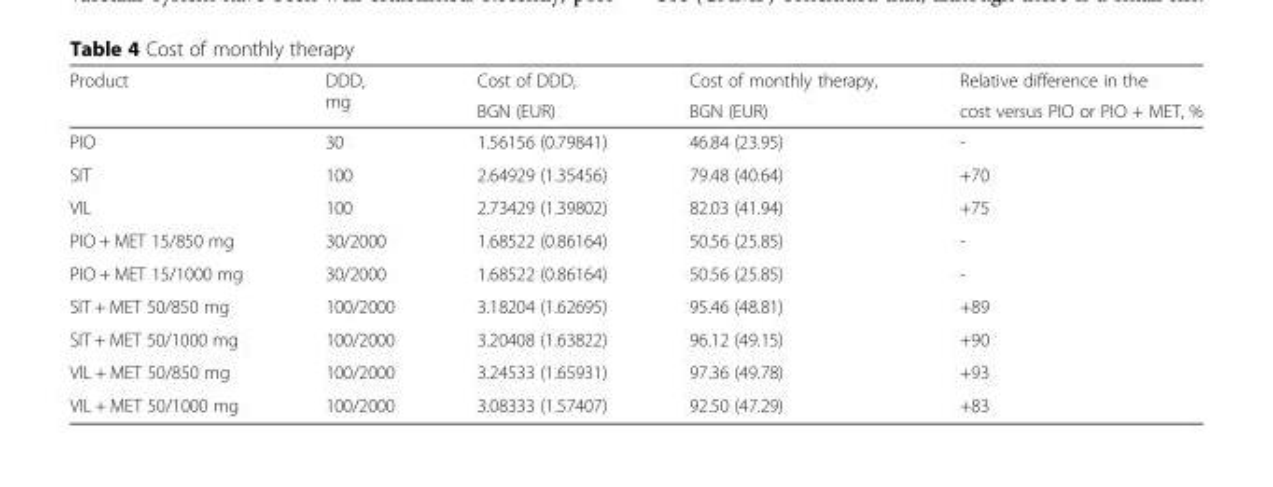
<table><thead><tr><td rowspan="2">Product</td><td rowspan="2">DDD, mg</td><td rowspan="2">Cost of DDD, BGN (EUR)</td><td rowspan="2">Cost of monthly therapy, BGN (EUR)</td><td rowspan="2">Relative difference in the cost versus PIO or PIO + MET, %</td></tr><tr></tr></thead><tbody><tr><td>PIO</td><td>30</td><td>1.56156 (0.79841)</td><td>46.84 (23.95)</td><td>-</td></tr><tr><td>SIT</td><td>100</td><td>2.64929 (1.35456)</td><td>79.48 (40.64)</td><td>+70</td></tr><tr><td>VIL</td><td>100</td><td>2.73429 (1.39802)</td><td>82.03 (41.94)</td><td>+75</td></tr><tr><td>PIO + МET 15/850 mg</td><td>30/2000</td><td>1.68522 (0.86164)</td><td>50.56 (25.85)</td><td>-</td></tr><tr><td>PIO + МET 15/1000 mg</td><td>30/2000</td><td>1.68522 (0.86164)</td><td>50.56 (25.85)</td><td>-</td></tr><tr><td>SIT + MET 50/850 mg</td><td>100/2000</td><td>3.18204 (1.62695)</td><td>95.46 (48.81)</td><td>+89</td></tr><tr><td>SIT + MET 50/1000 mg</td><td>100/2000</td><td>3.20408 (1.63822)</td><td>96.12 (49.15)</td><td>+90</td></tr><tr><td>VIL + МET 50/850 mg</td><td>100/2000</td><td>3.24533 (1.65931)</td><td>97.36 (49.78)</td><td>+93</td></tr><tr><td>VIL + MET 50/1000 mg</td><td>100/2000</td><td>3.08333 (1.57407)</td><td>92.50 (47.29)</td><td>+83</td></tr></tbody></table>